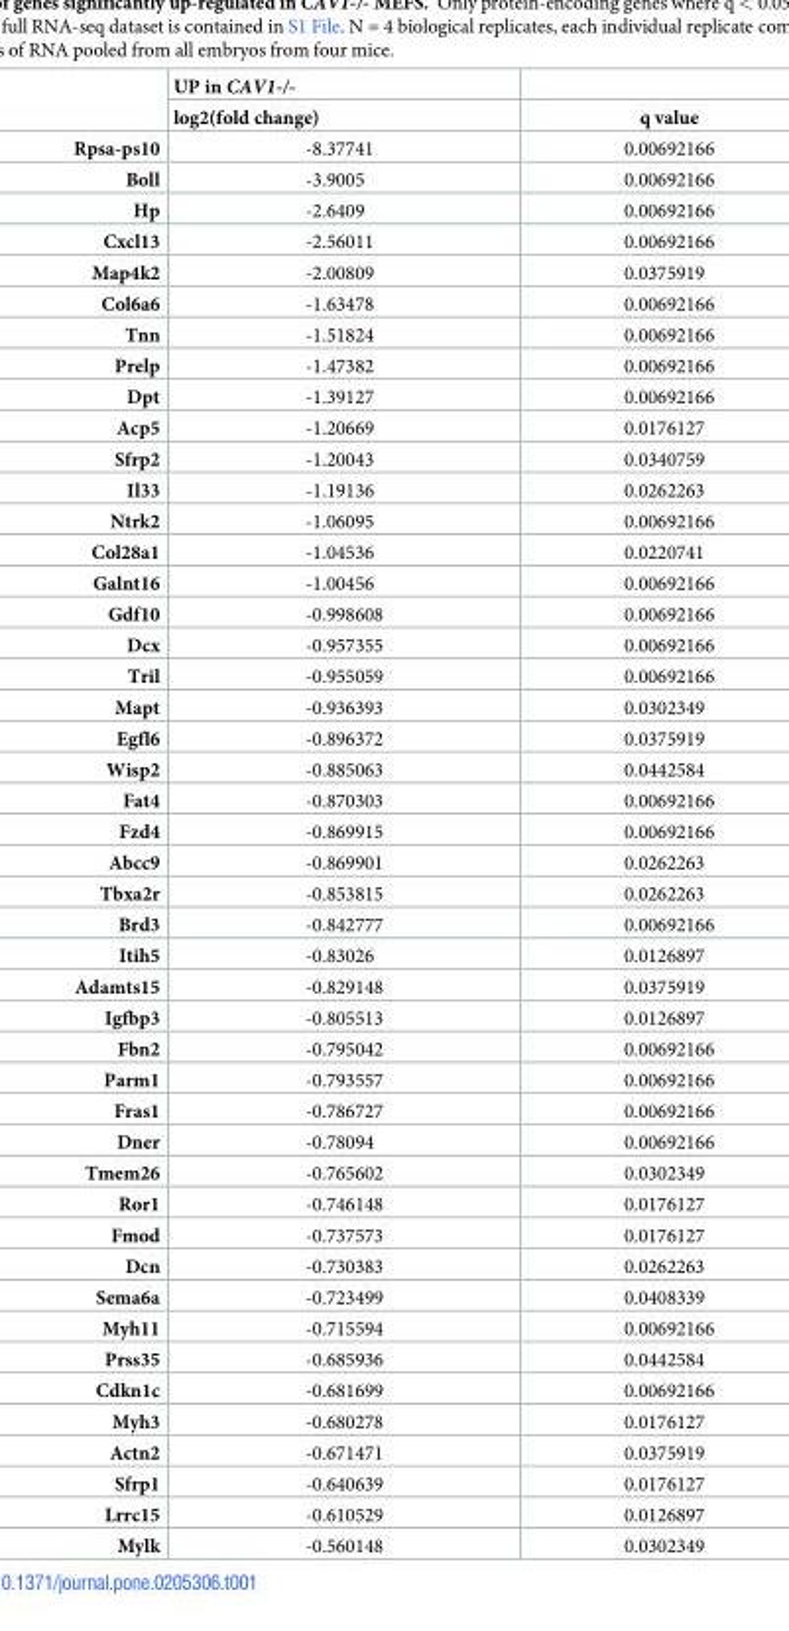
<table><thead><tr><td rowspan="2"></td><td rowspan="2">UP in CAV1-/- log2(fold change)</td><td rowspan="2">q value</td></tr><tr></tr></thead><tbody><tr><td>Rpsa-ps10</td><td>-8.37741</td><td>0.00692166</td></tr><tr><td>Boll</td><td>-3.9005</td><td>0.00692166</td></tr><tr><td>Hp</td><td>-2.6409</td><td>0.00692166</td></tr><tr><td>Cxcl13</td><td>-2.56011</td><td>0.00692166</td></tr><tr><td>Map4k2</td><td>-2.00809</td><td>0.0375919</td></tr><tr><td>Col6a6</td><td>-1.63478</td><td>0.00692166</td></tr><tr><td>Tnn</td><td>-1.51824</td><td>0.00692166</td></tr><tr><td>Prelp</td><td>-1.47382</td><td>0.00692166</td></tr><tr><td>Dpt</td><td>-1.39127</td><td>0.00692166</td></tr><tr><td>Acp5</td><td>-1.20669</td><td>0.0176127</td></tr><tr><td>Sfrp2</td><td>-1.20043</td><td>0.0340759</td></tr><tr><td>Il33</td><td>-1.19136</td><td>0.0262263</td></tr><tr><td>Ntrk2</td><td>-1.06095</td><td>0.00692166</td></tr><tr><td>Col28a1</td><td>-1.04536</td><td>0.0220741</td></tr><tr><td>Galnt16</td><td>-1.00456</td><td>0.00692166</td></tr><tr><td>Gdf10</td><td>-0.998608</td><td>0.00692166</td></tr><tr><td>Dcx</td><td>-0.957355</td><td>0.00692166</td></tr><tr><td>Tril</td><td>-0.955059</td><td>0.00692166</td></tr><tr><td>Mapt</td><td>-0.936393</td><td>0.0302349</td></tr><tr><td>Egfl6</td><td>-0.896372</td><td>0.0375919</td></tr><tr><td>Wisp2</td><td>-0.885063</td><td>0.0442584</td></tr><tr><td>Fat4</td><td>-0.870303</td><td>0.00692166</td></tr><tr><td>Fzd4</td><td>-0.869915</td><td>0.00692166</td></tr><tr><td>Abcc9</td><td>-0.869901</td><td>0.0262263</td></tr><tr><td>Tbxa2r</td><td>-0.853815</td><td>0.0262263</td></tr><tr><td>Brd3</td><td>-0.842777</td><td>0.00692166</td></tr><tr><td>Itih5</td><td>-0.83026</td><td>0.0126897</td></tr><tr><td>Adamts15</td><td>-0.829148</td><td>0.0375919</td></tr><tr><td>Igfbp3</td><td>-0.805513</td><td>0.0126897</td></tr><tr><td>Fbn2</td><td>-0.795042</td><td>0.00692166</td></tr><tr><td>Parm1</td><td>-0.793557</td><td>0.00692166</td></tr><tr><td>Fras1</td><td>-0.786727</td><td>0.00692166</td></tr><tr><td>Dner</td><td>-0.78094</td><td>0.00692166</td></tr><tr><td>Tmem26</td><td>-0.765602</td><td>0.0302349</td></tr><tr><td>Ror1</td><td>-0.746148</td><td>0.0176127</td></tr><tr><td>Fmod</td><td>-0.737573</td><td>0.0176127</td></tr><tr><td>Dcn</td><td>-0.730383</td><td>0.0262263</td></tr><tr><td>Sema6a</td><td>-0.723499</td><td>0.0408339</td></tr><tr><td>Myh11</td><td>-0.715594</td><td>0.00692166</td></tr><tr><td>Prss35</td><td>-0.685936</td><td>0.0442584</td></tr><tr><td>Cdkn1c</td><td>-0.681699</td><td>0.00692166</td></tr><tr><td>Myh3</td><td>-0.680278</td><td>0.0176127</td></tr><tr><td>Actn2</td><td>-0.671471</td><td>0.0375919</td></tr><tr><td>Sfrp1</td><td>-0.640639</td><td>0.0176127</td></tr><tr><td>Lrrc15</td><td>-0.610529</td><td>0.0126897</td></tr><tr><td>Mylk</td><td>-0.560148</td><td>0.0302349</td></tr></tbody></table>